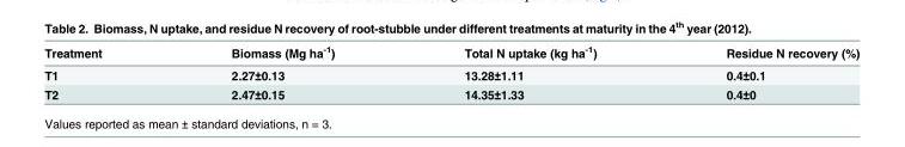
<table><thead><tr><td>Treatment</td><td>Biomass (Mg ha<sup>-1</sup>)</td><td>Total N uptake (kg ha<sup>-1</sup>)</td><td>Residue N recovery (%)</td></tr></thead><tbody><tr><td>T1</td><td>2.27±0.13</td><td>13.28±1.11</td><td>0.4±0.1</td></tr><tr><td>T2</td><td>2.47±0.15</td><td>14.35±1.33</td><td>0.4±0</td></tr></tbody></table>